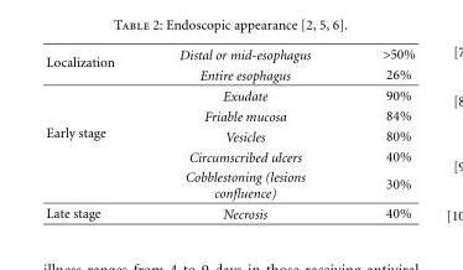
<table><thead><tr><td rowspan="2">Localization</td><td rowspan="2">Distal or mid-esophagus Entire esophagus</td><td rowspan="2">&gt;50% 26%</td></tr><tr></tr></thead><tbody><tr><td rowspan="5">Early stage</td><td>Exudate</td><td>90%</td></tr><tr><td>Friable mucosa</td><td>84%</td></tr><tr><td>Vesicles</td><td>80%</td></tr><tr><td>Circumscribed ulcers</td><td>40%</td></tr><tr><td>Cobblestoning (lesions confluence)</td><td>30%</td></tr><tr><td>Late stage</td><td>Necrosis</td><td>40%</td></tr></tbody></table>